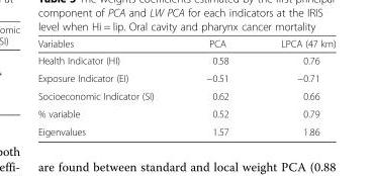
<table><thead><tr><td>Variables</td><td>PCA</td><td>LPCA (47 km)</td></tr></thead><tbody><tr><td>Health Indicator (HI)</td><td>0.58</td><td>0.76</td></tr><tr><td>Exposure Indicator (EI)</td><td>−0.51</td><td>−0.71</td></tr><tr><td>Socioeconomic Indicator (SI)</td><td>0.62</td><td>0.66</td></tr><tr><td>% variable</td><td>0.52</td><td>0.79</td></tr><tr><td>Eigenvalues</td><td>1.57</td><td>1.86</td></tr></tbody></table>